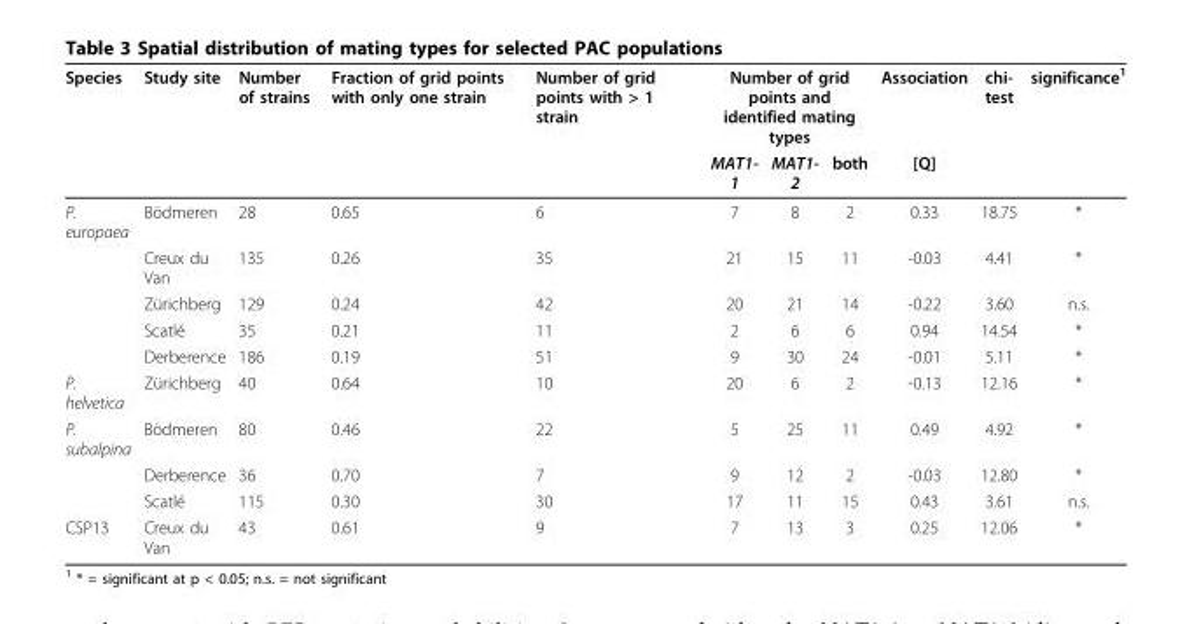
<table><thead><tr><td rowspan="2">Species</td><td rowspan="2">Study site</td><td rowspan="2">Number of strains</td><td rowspan="2">Fraction of grid points with only one strain</td><td rowspan="2">Number of grid points with &gt; 1 strain</td><td colspan="3">Number of grid points and identified mating types</td><td rowspan="2">Association [Q]</td><td rowspan="2">chi- test</td><td rowspan="2">significance<sup>1</sup></td></tr><tr><td>MAT1- 1</td><td>MAT1- 2</td><td>both</td></tr></thead><tbody><tr><td rowspan="5">P. europaea</td><td>Bödmeren</td><td>28</td><td>0.65</td><td>6</td><td>7</td><td>8</td><td>2</td><td>0.33</td><td>18.75</td><td>*</td></tr><tr><td>Creux du Van</td><td>135</td><td>0.26</td><td>35</td><td>21</td><td>15</td><td>11</td><td>-0.03</td><td>4.41</td><td>*</td></tr><tr><td>Zürichberg</td><td>129</td><td>0.24</td><td>42</td><td>20</td><td>21</td><td>14</td><td>-0.22</td><td>3.60</td><td>n.s.</td></tr><tr><td>Scatlé</td><td>35</td><td>0.21</td><td>11</td><td>2</td><td>6</td><td>6</td><td>0.94</td><td>14.54</td><td>*</td></tr><tr><td>Derberence</td><td>186</td><td>0.19</td><td>51</td><td>9</td><td>30</td><td>24</td><td>-0.01</td><td>5.11</td><td>*</td></tr><tr><td>P. helvetica</td><td>Zürichberg</td><td>40</td><td>0.64</td><td>10</td><td>20</td><td>6</td><td>2</td><td>-0.13</td><td>12.16</td><td>*</td></tr><tr><td rowspan="3">P. subalpina</td><td>Bödmeren</td><td>80</td><td>0.46</td><td>22</td><td>5</td><td>25</td><td>11</td><td>0.49</td><td>4.92</td><td>*</td></tr><tr><td>Derberence</td><td>36</td><td>0.70</td><td>7</td><td>9</td><td>12</td><td>2</td><td>-0.03</td><td>12.80</td><td>*</td></tr><tr><td>Scatlé</td><td>115</td><td>0.30</td><td>30</td><td>17</td><td>11</td><td>15</td><td>0.43</td><td>3.61</td><td>n.s.</td></tr><tr><td>CSP13</td><td>Creux du Van</td><td>43</td><td>0.61</td><td>9</td><td>7</td><td>13</td><td>3</td><td>0.25</td><td>12.06</td><td>*</td></tr></tbody></table>